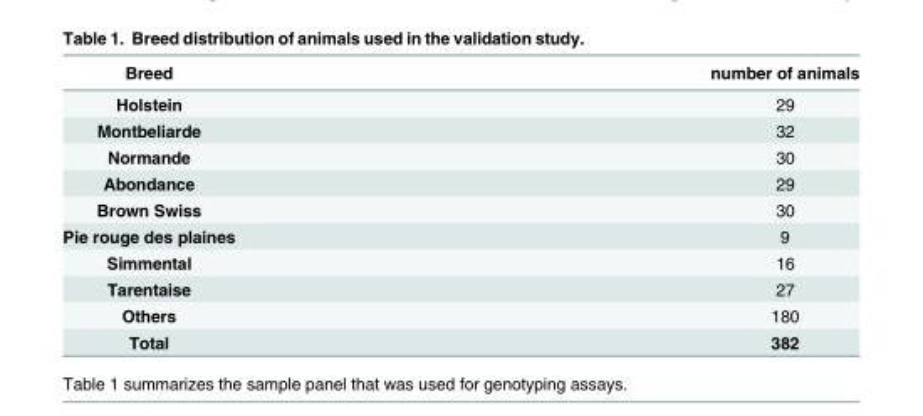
<table><thead><tr><td>Breed</td><td>number of animals</td></tr></thead><tbody><tr><td>Holstein</td><td>29</td></tr><tr><td>Montbeliarde</td><td>32</td></tr><tr><td>Normande</td><td>30</td></tr><tr><td>Abondance</td><td>29</td></tr><tr><td>Brown Swiss</td><td>30</td></tr><tr><td>Pie rouge des plaines</td><td>9</td></tr><tr><td>Simmental</td><td>16</td></tr><tr><td>Tarentaise</td><td>27</td></tr><tr><td>Others</td><td>180</td></tr><tr><td>Total</td><td>382</td></tr></tbody></table>